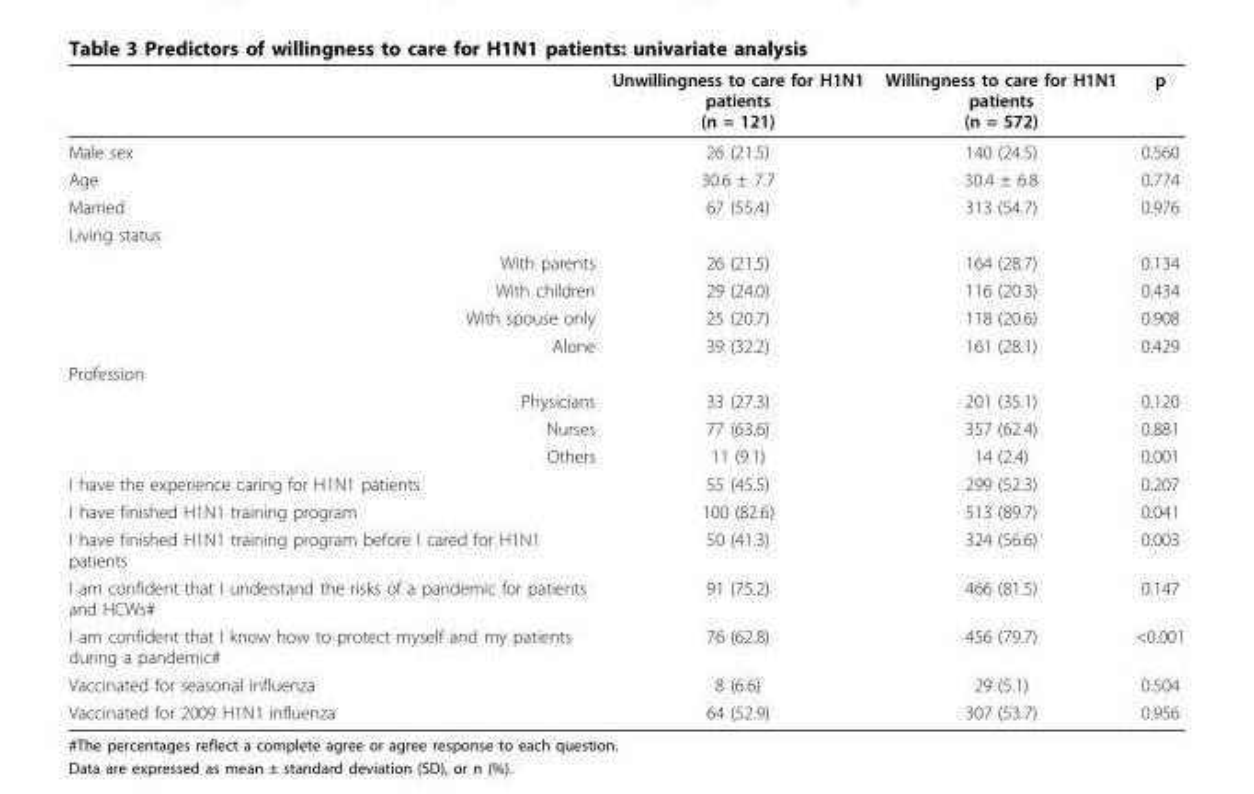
<table><thead><tr><td></td><td>Unwillingness to care for H1N1 patients (n = 121)</td><td>Willingness to care for H1N1 patients (n = 572)</td><td>p</td></tr></thead><tbody><tr><td>Male sex</td><td>26 (21.5)</td><td>140 (24.5)</td><td>0.560</td></tr><tr><td>Age</td><td>30.6 ± 7.7</td><td>30.4 ± 6.8</td><td>0.774</td></tr><tr><td>Married</td><td>67 (55.4)</td><td>313 (54.7)</td><td>0.976</td></tr><tr><td colspan="4">Living status</td></tr><tr><td>With parents</td><td>26 (21.5)</td><td>164 (28.7)</td><td>0.134</td></tr><tr><td>With children</td><td>29 (24.0)</td><td>116 (20.3)</td><td>0.434</td></tr><tr><td>With spouse only</td><td>25 (20.7)</td><td>118 (20.6)</td><td>0.908</td></tr><tr><td>Alone</td><td>39 (32.2)</td><td>161 (28.1)</td><td>0.429</td></tr><tr><td colspan="4">Profession</td></tr><tr><td>Physicians</td><td>33 (27.3)</td><td>201 (35.1)</td><td>0.120</td></tr><tr><td>Nurses</td><td>77 (63.6)</td><td>357 (62.4)</td><td>0.881</td></tr><tr><td>Others</td><td>11 (9.1)</td><td>14 (2.4)</td><td>0.001</td></tr><tr><td>I have the experience caring for H1N1 patients</td><td>55 (45.5)</td><td>299 (52.3)</td><td>0.207</td></tr><tr><td>I have finished H1N1 training program</td><td>100 (82.6)</td><td>513 (89.7)</td><td>0.041</td></tr><tr><td>I have finished H1N1 training program before I cared for H1N1 patients</td><td>50 (41.3)</td><td>324 (56.6)</td><td>0.003</td></tr><tr><td>I am confident that I understand the risks of a pandemic for patients and HCWs#</td><td>91 (75.2)</td><td>466 (81.5)</td><td>0.147</td></tr><tr><td>I am confident that I know how to protect myself and my patients during a pandemic#</td><td>76 (62.8)</td><td>456 (79.7)</td><td>&lt;0.001</td></tr><tr><td>Vaccinated for seasonal influenza</td><td>8 (6.6)</td><td>29 (5.1)</td><td>0.504</td></tr><tr><td>Vaccinated for 2009 H1N1 influenza</td><td>64 (52.9)</td><td>307 (53.7)</td><td>0.956</td></tr></tbody></table>